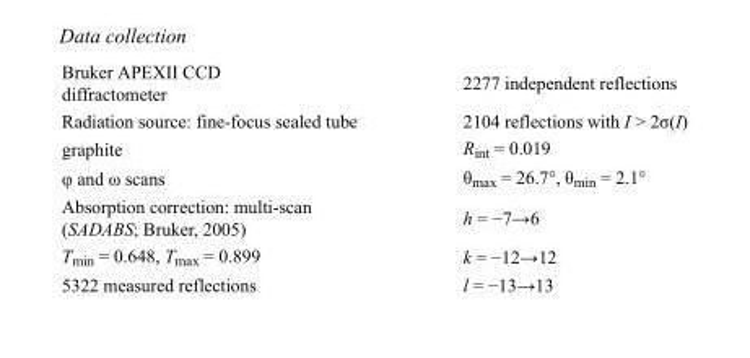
<table><tbody><tr><td>Bruker APEXII CCD diffractometer</td><td>2277 independent reflections</td></tr><tr><td>Radiation source: fine-focus sealed tube</td><td>2104 reflections with I &gt; 2σ(I)</td></tr><tr><td>graphite</td><td>R<sub>int</sub> = 0.019</td></tr><tr><td>φ and ω scans</td><td>θ<sub>max</sub> = 26.7°, θ<sub>min</sub> = 2.1°</td></tr><tr><td>Absorption correction: multi-scan (SADABS; Bruker, 2005)</td><td>h = −7→6</td></tr><tr><td>T<sub>min</sub> = 0.648, T<sub>max</sub> = 0.899</td><td>k = −12→12</td></tr><tr><td>5322 measured reflections</td><td>l = −13→13</td></tr></tbody></table>